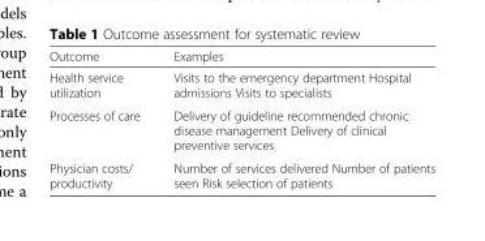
<table><thead><tr><td>Outcome</td><td>Examples</td></tr></thead><tbody><tr><td>Health service utilization</td><td>Visits to the emergency department Hospital admissions Visits to specialists</td></tr><tr><td>Processes of care</td><td>Delivery of guideline recommended chronic disease management Delivery of clinical preventive services</td></tr><tr><td>Physician costs/ productivity</td><td>Number of services delivered Number of patients seen Risk selection of patients</td></tr></tbody></table>